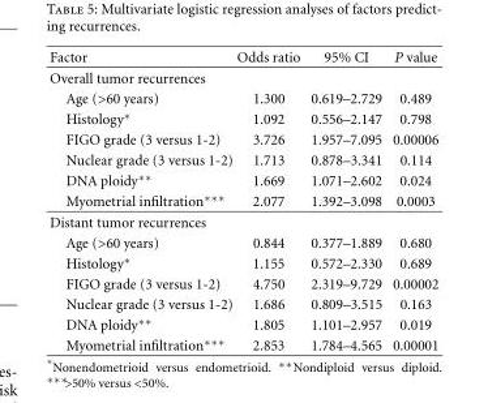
<table><thead><tr><td>Factor</td><td>Odds ratio</td><td>95% CI</td><td>P value</td></tr></thead><tbody><tr><td colspan="4">Overall tumor recurrences</td></tr><tr><td>Age (&gt;60 years)</td><td>1.300</td><td>0.619–2.729</td><td>0.489</td></tr><tr><td>Histology∗</td><td>1.092</td><td>0.556–2.147</td><td>0.798</td></tr><tr><td>FIGO grade (3 versus 1-2)</td><td>3.726</td><td>1.957–7.095</td><td>0.00006</td></tr><tr><td>Nuclear grade (3 versus 1-2)</td><td>1.713</td><td>0.878–3.341</td><td>0.114</td></tr><tr><td>DNA ploidy∗∗</td><td>1.669</td><td>1.071–2.602</td><td>0.024</td></tr><tr><td>Myometrial infiltration∗∗∗</td><td>2.077</td><td>1.392–3.098</td><td>0.0003</td></tr><tr><td colspan="4">Distant tumor recurrences</td></tr><tr><td>Age (&gt;60 years)</td><td>0.844</td><td>0.377–1.889</td><td>0.680</td></tr><tr><td>Histology∗</td><td>1.155</td><td>0.572–2.330</td><td>0.689</td></tr><tr><td>FIGO grade (3 versus 1-2)</td><td>4.750</td><td>2.319–9.729</td><td>0.00002</td></tr><tr><td>Nuclear grade (3 versus 1-2)</td><td>1.686</td><td>0.809–3.515</td><td>0.163</td></tr><tr><td>DNA ploidy∗∗</td><td>1.805</td><td>1.101–2.957</td><td>0.019</td></tr><tr><td>Myometrial infiltration∗∗∗</td><td>2.853</td><td>1.784–4.565</td><td>0.00001</td></tr></tbody></table>